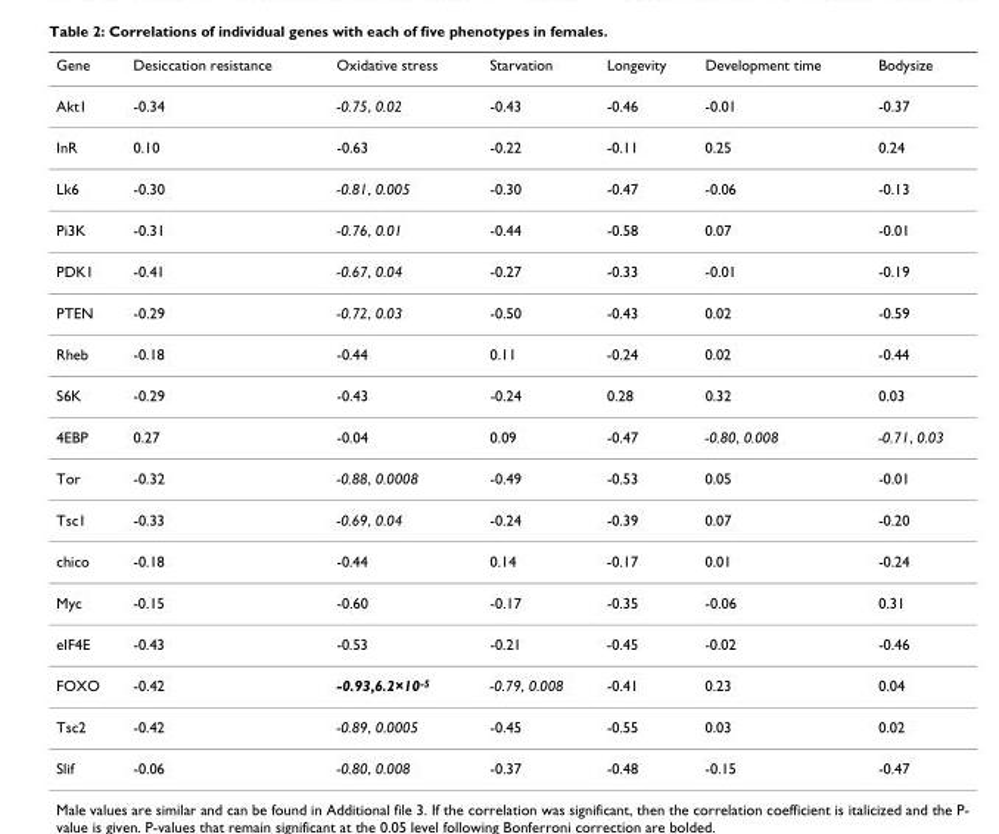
<table><thead><tr><td>Gene</td><td>Desiccation resistance</td><td>Oxidative stress</td><td>Starvation</td><td>Longevity</td><td>Development time</td><td>Bodysize</td></tr></thead><tbody><tr><td>Akt1</td><td>-0.34</td><td>-0.75, 0.02</td><td>-0.43</td><td>-0.46</td><td>-0.01</td><td>-0.37</td></tr><tr><td>InR</td><td>0.10</td><td>-0.63</td><td>-0.22</td><td>-0.11</td><td>0.25</td><td>0.24</td></tr><tr><td>Lk6</td><td>-0.30</td><td>-0.81, 0.005</td><td>-0.30</td><td>-0.47</td><td>-0.06</td><td>-0.13</td></tr><tr><td>Pi3K</td><td>-0.31</td><td>-0.76, 0.01</td><td>-0.44</td><td>-0.58</td><td>0.07</td><td>-0.01</td></tr><tr><td>PDK1</td><td>-0.41</td><td>-0.67, 0.04</td><td>-0.27</td><td>-0.33</td><td>-0.01</td><td>-0.19</td></tr><tr><td>PTEN</td><td>-0.29</td><td>-0.72, 0.03</td><td>-0.50</td><td>-0.43</td><td>0.02</td><td>-0.59</td></tr><tr><td>Rheb</td><td>-0.18</td><td>-0.44</td><td>0.11</td><td>-0.24</td><td>0.02</td><td>-0.44</td></tr><tr><td>S6K</td><td>-0.29</td><td>-0.43</td><td>-0.24</td><td>0.28</td><td>0.32</td><td>0.03</td></tr><tr><td>4EBP</td><td>0.27</td><td>-0.04</td><td>0.09</td><td>-0.47</td><td>-0.80, 0.008</td><td>-0.71, 0.03</td></tr><tr><td>Tor</td><td>-0.32</td><td>-0.88, 0.0008</td><td>-0.49</td><td>-0.53</td><td>0.05</td><td>-0.01</td></tr><tr><td>Tsc1</td><td>-0.33</td><td>-0.69, 0.04</td><td>-0.24</td><td>-0.39</td><td>0.07</td><td>-0.20</td></tr><tr><td>chico</td><td>-0.18</td><td>-0.44</td><td>0.14</td><td>-0.17</td><td>0.01</td><td>-0.24</td></tr><tr><td>Myc</td><td>-0.15</td><td>-0.60</td><td>-0.17</td><td>-0.35</td><td>-0.06</td><td>0.31</td></tr><tr><td>eIF4E</td><td>-0.43</td><td>-0.53</td><td>-0.21</td><td>-0.45</td><td>-0.02</td><td>-0.46</td></tr><tr><td>FOXO</td><td>-0.42</td><td>-0.93,6.2×10<sup>-5</sup></td><td>-0.79, 0.008</td><td>-0.41</td><td>0.23</td><td>0.04</td></tr><tr><td>Tsc2</td><td>-0.42</td><td>-0.89, 0.0005</td><td>-0.45</td><td>-0.55</td><td>0.03</td><td>0.02</td></tr><tr><td>Slif</td><td>-0.06</td><td>-0.80, 0.008</td><td>-0.37</td><td>-0.48</td><td>-0.15</td><td>-0.47</td></tr></tbody></table>